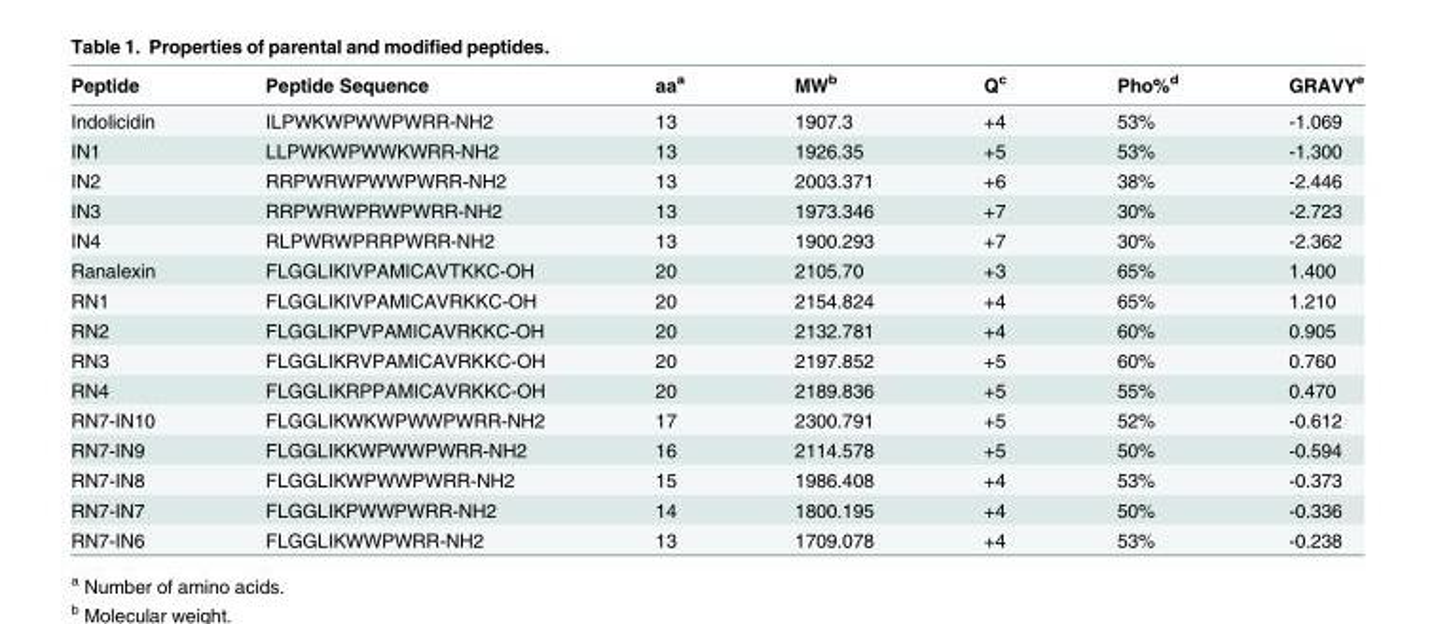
<table><thead><tr><td>Peptide</td><td>Peptide Sequence</td><td>aa<sup>a</sup></td><td>MW<sup>b</sup></td><td>Q<sup>c</sup></td><td>Pho%<sup>d</sup></td><td>GRAVY<sup>e</sup></td></tr></thead><tbody><tr><td>Indolicidin</td><td>ILPWKWPWWPWRR-NH2</td><td>13</td><td>1907.3</td><td>+4</td><td>53%</td><td>-1.069</td></tr><tr><td>IN1</td><td>LLPWKWPWWKWRR-NH2</td><td>13</td><td>1926.35</td><td>+5</td><td>53%</td><td>-1.300</td></tr><tr><td>IN2</td><td>RRPWRWPWWPWRR-NH2</td><td>13</td><td>2003.371</td><td>+6</td><td>38%</td><td>-2.446</td></tr><tr><td>IN3</td><td>RRPWRWPRWPWRR-NH2</td><td>13</td><td>1973.346</td><td>+7</td><td>30%</td><td>-2.723</td></tr><tr><td>IN4</td><td>RLPWRWPRRPWRR-NH2</td><td>13</td><td>1900.293</td><td>+7</td><td>30%</td><td>-2.362</td></tr><tr><td>Ranalexin</td><td>FLGGLIKIVPAMICAVTKKC-OH</td><td>20</td><td>2105.70</td><td>+3</td><td>65%</td><td>1.400</td></tr><tr><td>RN1</td><td>FLGGLIKIVPAMICAVRKKC-OH</td><td>20</td><td>2154.824</td><td>+4</td><td>65%</td><td>1.210</td></tr><tr><td>RN2</td><td>FLGGLIKPVPAMICAVRKKC-OH</td><td>20</td><td>2132.781</td><td>+4</td><td>60%</td><td>0.905</td></tr><tr><td>RN3</td><td>FLGGLIKRVPAMICAVRKKC-OH</td><td>20</td><td>2197.852</td><td>+5</td><td>60%</td><td>0.760</td></tr><tr><td>RN4</td><td>FLGGLIKRPPAMICAVRKKC-OH</td><td>20</td><td>2189.836</td><td>+5</td><td>55%</td><td>0.470</td></tr><tr><td>RN7-IN10</td><td>FLGGLIKWKWPWWPWRR-NH2</td><td>17</td><td>2300.791</td><td>+5</td><td>52%</td><td>-0.612</td></tr><tr><td>RN7-IN9</td><td>FLGGLIKKWPWWPWRR-NH2</td><td>16</td><td>2114.578</td><td>+5</td><td>50%</td><td>-0.594</td></tr><tr><td>RN7-IN8</td><td>FLGGLIKWPWWPWRR-NH2</td><td>15</td><td>1986.408</td><td>+4</td><td>53%</td><td>-0.373</td></tr><tr><td>RN7-IN7</td><td>FLGGLIKPWWPWRR-NH2</td><td>14</td><td>1800.195</td><td>+4</td><td>50%</td><td>-0.336</td></tr><tr><td>RN7-IN6</td><td>FLGGLIKWWPWRR-NH2</td><td>13</td><td>1709.078</td><td>+4</td><td>53%</td><td>-0.238</td></tr></tbody></table>